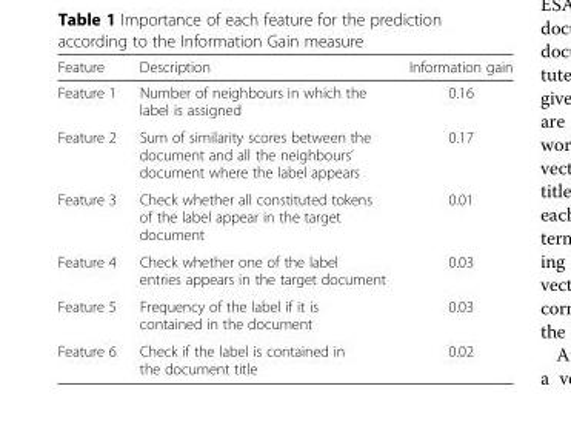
<table><thead><tr><td>Feature</td><td>Description</td><td>Information gain</td></tr></thead><tbody><tr><td>Feature 1</td><td>Number of neighbours in which the label is assigned</td><td>0.16</td></tr><tr><td>Feature 2</td><td>Sum of similarity scores between the document and all the neighbours’ document where the label appears</td><td>0.17</td></tr><tr><td>Feature 3</td><td>Check whether all constituted tokens of the label appear in the target document</td><td>0.01</td></tr><tr><td>Feature 4</td><td>Check whether one of the label entries appears in the target document</td><td>0.03</td></tr><tr><td>Feature 5</td><td>Frequency of the label if it is contained in the document</td><td>0.03</td></tr><tr><td>Feature 6</td><td>Check if the label is contained in the document title</td><td>0.02</td></tr></tbody></table>